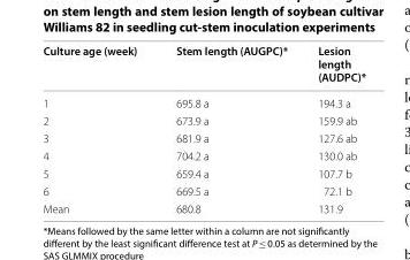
<table><thead><tr><td>Culture age (week)</td><td>Stem length (AUGPC)*</td><td>Lesion length (AUDPC)*</td></tr></thead><tbody><tr><td>1</td><td>695.8 a</td><td>194.3 a</td></tr><tr><td>2</td><td>673.9 a</td><td>159.9 ab</td></tr><tr><td>3</td><td>681.9 a</td><td>127.6 ab</td></tr><tr><td>4</td><td>704.2 a</td><td>130.0 ab</td></tr><tr><td>5</td><td>659.4 a</td><td>107.7 b</td></tr><tr><td>6</td><td>669.5 a</td><td>72.1 b</td></tr><tr><td>Mean</td><td>680.8</td><td>131.9</td></tr></tbody></table>